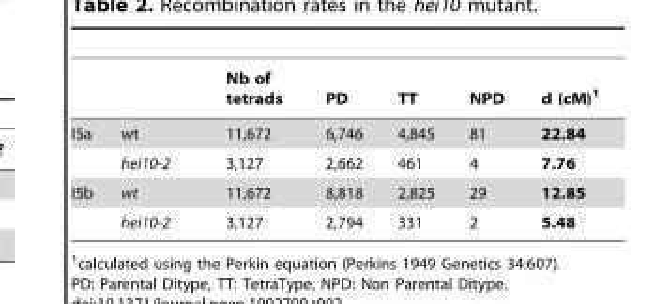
<table><thead><tr><td></td><td></td><td>Nb of tetrads</td><td>PD</td><td>TT</td><td>NPD</td><td>d (cM)<sup>1</sup></td></tr></thead><tbody><tr><td rowspan="2">I5a</td><td>wt</td><td>11,672</td><td>6,746</td><td>4,845</td><td>81</td><td>22.84</td></tr><tr><td>hei10-2</td><td>3,127</td><td>2,662</td><td>461</td><td>4</td><td>7.76</td></tr><tr><td rowspan="2">I5b</td><td>wt</td><td>11,672</td><td>8,818</td><td>2,825</td><td>29</td><td>12.85</td></tr><tr><td>hei10-2</td><td>3,127</td><td>2,794</td><td>331</td><td>2</td><td>5.48</td></tr></tbody></table>